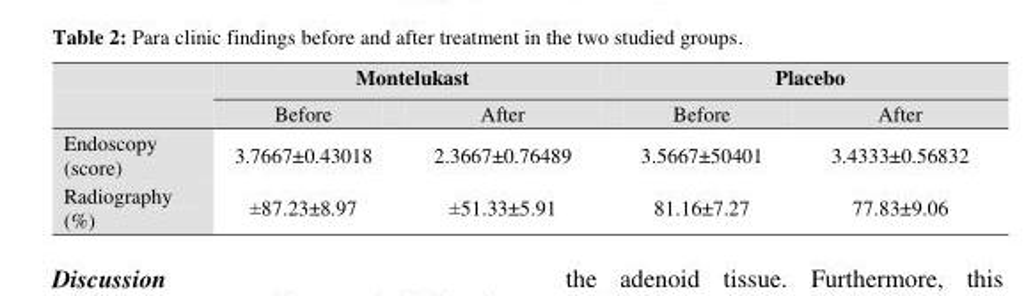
<table><thead><tr><td rowspan="2"></td><td colspan="2">Montelukast</td><td colspan="2">Placebo</td></tr><tr><td>Before</td><td>After</td><td>Before</td><td>After</td></tr></thead><tbody><tr><td>Endoscopy (score)</td><td>3.7667±0.43018</td><td>2.3667±0.76489</td><td>3.5667±50401</td><td>3.4333±0.56832</td></tr><tr><td>Radiography (%)</td><td>±87.23±8.97</td><td>±51.33±5.91</td><td>81.16±7.27</td><td>77.83±9.06</td></tr></tbody></table>